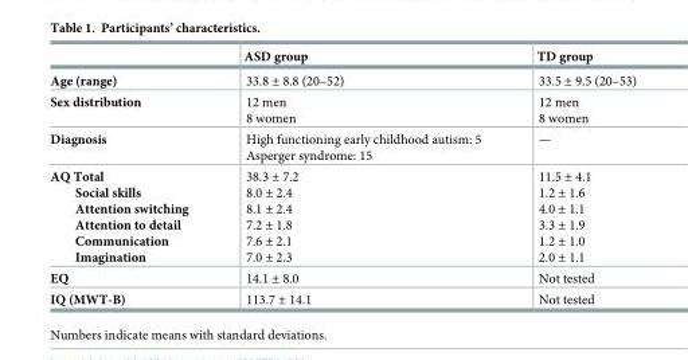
<table><thead><tr><td></td><td>ASD group</td><td>TD group</td></tr></thead><tbody><tr><td>Age (range)</td><td>33.8 ± 8.8 (20–52)</td><td>33.5 ± 9.5 (20–53)</td></tr><tr><td>Sex distribution</td><td>12 men 8 women</td><td>12 men 8 women</td></tr><tr><td>Diagnosis</td><td>High functioning early childhood autism: 5 Asperger syndrome: 15</td><td>—</td></tr><tr><td>AQ Total Social skills Attention switching Attention to detail Communication Imagination</td><td>38.3 ± 7.2 8.0 ± 2.4 8.1 ± 2.4 7.2 ± 1.8 7.6 ± 2.1 7.0 ± 2.3</td><td>11.5 ± 4.1 1.2 ± 1.6 4.0 ± 1.1 3.3 ± 1.9 1.2 ± 1.0 2.0 ± 1.1</td></tr><tr><td>EQ</td><td>14.1 ± 8.0</td><td>Not tested</td></tr><tr><td>IQ (MWT-B)</td><td>113.7 ± 14.1</td><td>Not tested</td></tr></tbody></table>